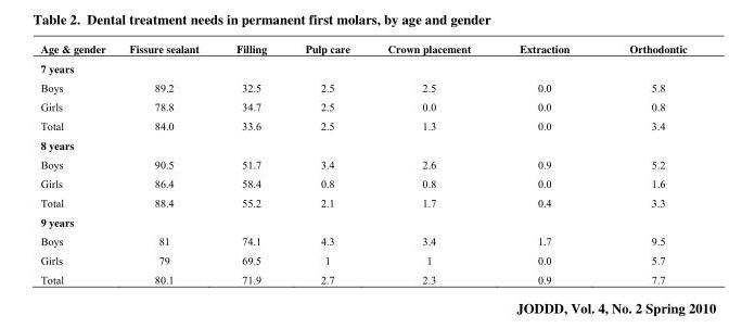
<table><tbody><tr><td>Age &amp; gender</td><td>Fissure sealant</td><td>Filling</td><td>Pulp care</td><td>Crown placement</td><td>Extraction</td><td>Orthodontic</td></tr><tr><td>7 years Boys Girls Total</td><td>89.2 78.8 84.0</td><td>32.5 34.7 33.6</td><td>2.5 2.5 2.5</td><td>2.5 0.0 1.3</td><td>0.0 0.0 0.0</td><td>5.8 0.8 3.4</td></tr><tr><td>8 years Boys Girls Total</td><td>90.5 86.4 88.4</td><td>51.7 58.4 55.2</td><td>3.4 0.8 2.1</td><td>2.6 0.8 1.7</td><td>0.9 0.0 0.4</td><td>5.2 1.6 3.3</td></tr><tr><td>9 years Boys Girls Total</td><td>81 79 80.1</td><td>74.1 69.5 71.9</td><td>4.3 1 2.7</td><td>3.4 1 2.3</td><td>1.7 0.0 0.9</td><td>9.5 5.7 7.7</td></tr></tbody></table>